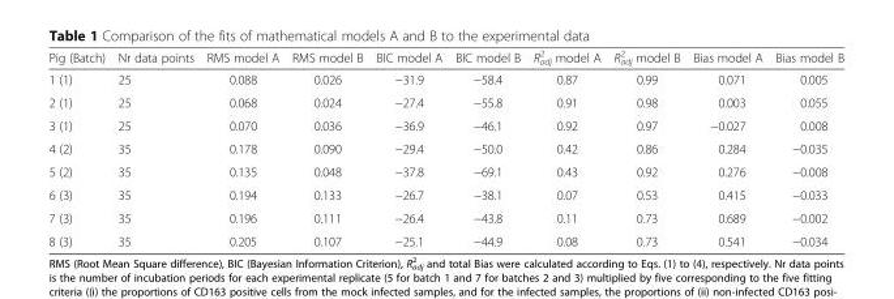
<table><thead><tr><td>Pig (Batch)</td><td>Nr data points</td><td>RMS model A</td><td>RMS model B</td><td>BIC model A</td><td>BIC model B</td><td>R<sub>adj</sub> <sup>2</sup> model A</td><td>R<sub>adj</sub> <sup>2</sup> model B</td><td>Bias model A</td><td>Bias model B</td></tr></thead><tbody><tr><td>1 (1)</td><td>25</td><td>0.088</td><td>0.026</td><td>−31.9</td><td>−58.4</td><td>0.87</td><td>0.99</td><td>0.071</td><td>0.005</td></tr><tr><td>2 (1)</td><td>25</td><td>0.068</td><td>0.024</td><td>−27.4</td><td>−55.8</td><td>0.91</td><td>0.98</td><td>0.003</td><td>0.055</td></tr><tr><td>3 (1)</td><td>25</td><td>0.070</td><td>0.036</td><td>−36.9</td><td>−46.1</td><td>0.92</td><td>0.97</td><td>−0.027</td><td>0.008</td></tr><tr><td>4 (2)</td><td>35</td><td>0.178</td><td>0.090</td><td>−29.4</td><td>−50.0</td><td>0.42</td><td>0.86</td><td>0.284</td><td>−0.035</td></tr><tr><td>5 (2)</td><td>35</td><td>0.135</td><td>0.048</td><td>−37.8</td><td>−69.1</td><td>0.43</td><td>0.92</td><td>0.276</td><td>−0.008</td></tr><tr><td>6 (3)</td><td>35</td><td>0.194</td><td>0.133</td><td>−26.7</td><td>−38.1</td><td>0.07</td><td>0.53</td><td>0.415</td><td>−0.033</td></tr><tr><td>7 (3)</td><td>35</td><td>0.196</td><td>0.111</td><td>−26.4</td><td>−43.8</td><td>0.11</td><td>0.73</td><td>0.689</td><td>−0.002</td></tr><tr><td>8 (3)</td><td>35</td><td>0.205</td><td>0.107</td><td>−25.1</td><td>−44.9</td><td>0.08</td><td>0.73</td><td>0.541</td><td>−0.034</td></tr></tbody></table>